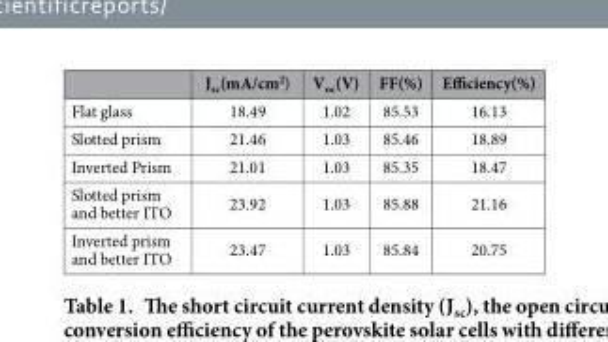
<table><thead><tr><td></td><td>J<sub>sc</sub>(mA/cm<sup>2</sup>)</td><td>V<sub>oc</sub>(V)</td><td>FF(%)</td><td>Efficiency(%)</td></tr></thead><tbody><tr><td>Flat glass</td><td>18.49</td><td>1.02</td><td>85.53</td><td>16.13</td></tr><tr><td>Slotted prism</td><td>21.46</td><td>1.03</td><td>85.46</td><td>18.89</td></tr><tr><td>Inverted Prism</td><td>21.01</td><td>1.03</td><td>85.35</td><td>18.47</td></tr><tr><td>Slotted prism and better ITO</td><td>23.92</td><td>1.03</td><td>85.88</td><td>21.16</td></tr><tr><td>Inverted prism and better ITO</td><td>23.47</td><td>1.03</td><td>85.84</td><td>20.75</td></tr></tbody></table>